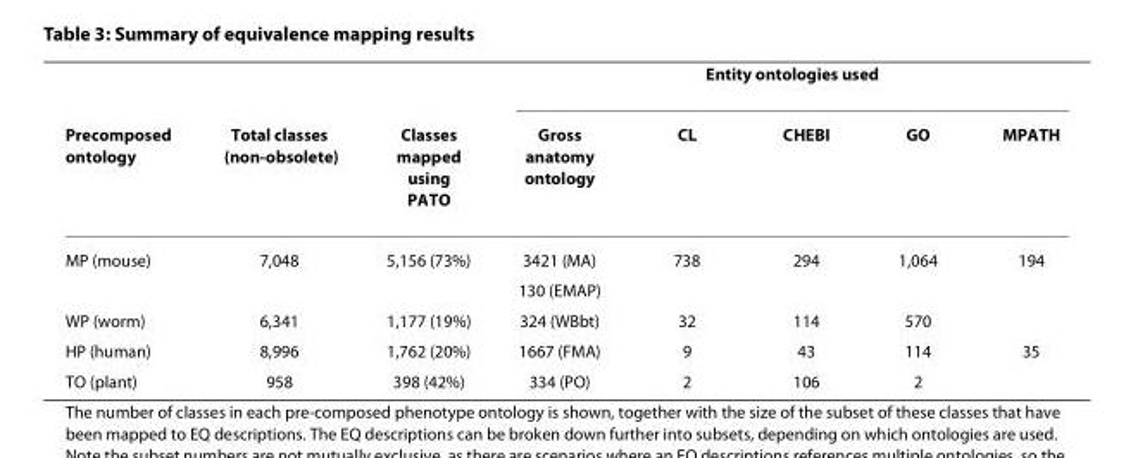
<table><thead><tr><td rowspan="2">Precomposed ontology</td><td rowspan="2">Total classes (non-obsolete)</td><td rowspan="2">Classes mapped using PATO</td><td colspan="5">Entity ontologies used</td></tr><tr><td>Gross anatomy ontology</td><td>CL</td><td>CHEBI</td><td>GO</td><td>MPATH</td></tr></thead><tbody><tr><td rowspan="2">MP (mouse)</td><td>7,048</td><td>5,156 (73%)</td><td>3421 (MA)</td><td>738</td><td>294</td><td>1,064</td><td>194</td></tr><tr><td></td><td></td><td>130 (EMAP)</td><td></td><td></td><td></td><td></td></tr><tr><td>WP (worm)</td><td>6,341</td><td>1,177 (19%)</td><td>324 (WBbt)</td><td>32</td><td>114</td><td>570</td><td></td></tr><tr><td>HP (human)</td><td>8,996</td><td>1,762 (20%)</td><td>1667 (FMA)</td><td>9</td><td>43</td><td>114</td><td>35</td></tr><tr><td>TO (plant)</td><td>958</td><td>398 (42%)</td><td>334 (PO)</td><td>2</td><td>106</td><td>2</td><td></td></tr></tbody></table>